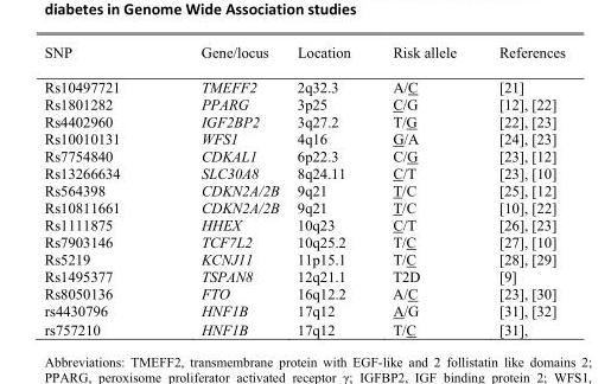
<table><thead><tr><td>SNP</td><td>Gene/locus</td><td>Location</td><td>Risk allele</td><td>References</td></tr></thead><tbody><tr><td>Rs10497721</td><td>TMEFF2</td><td>2q32.3</td><td>A/C</td><td>[21]</td></tr><tr><td>Rs1801282</td><td>PPARG</td><td>3p25</td><td>C/G</td><td>[12], [22]</td></tr><tr><td>Rs4402960</td><td>IGF2BP2</td><td>3q27.2</td><td>T/G</td><td>[22], [23]</td></tr><tr><td>Rs10010131</td><td>WFS1</td><td>4q16</td><td>G/A</td><td>[24], [23]</td></tr><tr><td>Rs7754840</td><td>CDKAL1</td><td>6p22.3</td><td>C/G</td><td>[23], [12]</td></tr><tr><td>Rs13266634</td><td>SLC30A8</td><td>8q24.11</td><td>C/T</td><td>[23], [10]</td></tr><tr><td>Rs564398</td><td>CDKN2A/2B</td><td>9q21</td><td>T/C</td><td>[25], [12]</td></tr><tr><td>Rs10811661</td><td>CDKN2A/2B</td><td>9q21</td><td>T/C</td><td>[10], [22]</td></tr><tr><td>Rs1111875</td><td>HHEX</td><td>10q23</td><td>C/T</td><td>[26], [23]</td></tr><tr><td>Rs7903146</td><td>TCF7L2</td><td>10q25.2</td><td>T/C</td><td>[27], [10]</td></tr><tr><td>Rs5219</td><td>KCNJ11</td><td>11p15.1</td><td>T/C</td><td>[28], [29]</td></tr><tr><td>Rs1495377</td><td>TSPAN8</td><td>12q21.1</td><td>T2D</td><td>[9]</td></tr><tr><td>Rs8050136</td><td>FTO</td><td>16q12.2</td><td>A/C</td><td>[23], [30]</td></tr><tr><td>rs4430796</td><td>HNF1B</td><td>17q12</td><td>A/G</td><td>[31], [32]</td></tr><tr><td>rs757210</td><td>HNF1B</td><td>17q12</td><td>T/C</td><td>[31],</td></tr></tbody></table>